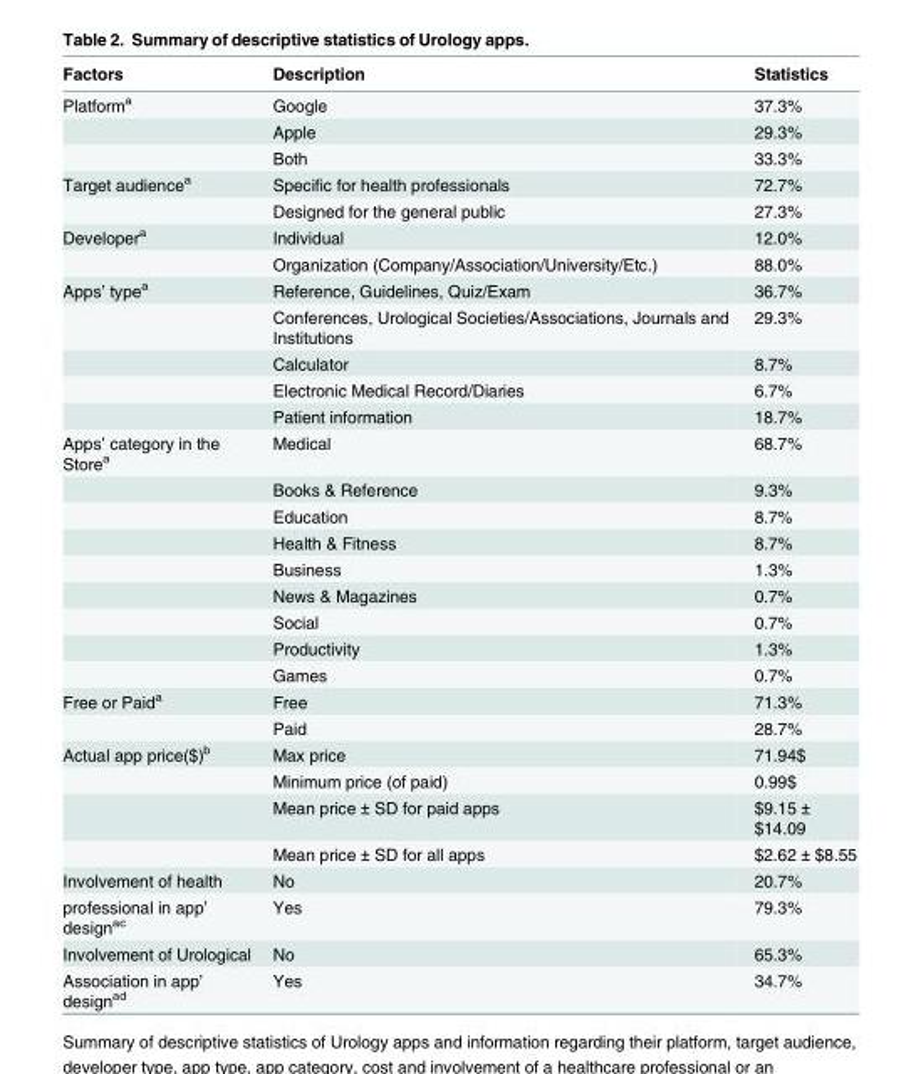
<table><thead><tr><td>Factors</td><td>Description</td><td>Statistics</td></tr></thead><tbody><tr><td rowspan="3">Platform<sup>a</sup></td><td>Google</td><td>37.3%</td></tr><tr><td>Apple</td><td>29.3%</td></tr><tr><td>Both</td><td>33.3%</td></tr><tr><td rowspan="2">Target audience<sup>a</sup></td><td>Specific for health professionals</td><td>72.7%</td></tr><tr><td>Designed for the general public</td><td>27.3%</td></tr><tr><td rowspan="2">Developer<sup>a</sup></td><td>Individual</td><td>12.0%</td></tr><tr><td>Organization (Company/Association/University/Etc.)</td><td>88.0%</td></tr><tr><td rowspan="5">Apps’ type<sup>a</sup></td><td>Reference, Guidelines, Quiz/Exam</td><td>36.7%</td></tr><tr><td>Conferences, Urological Societies/Associations, Journals and Institutions</td><td>29.3%</td></tr><tr><td>Calculator</td><td>8.7%</td></tr><tr><td>Electronic Medical Record/Diaries</td><td>6.7%</td></tr><tr><td>Patient information</td><td>18.7%</td></tr><tr><td rowspan="9">Apps’ category in the Store<sup>a</sup></td><td>Medical</td><td>68.7%</td></tr><tr><td>Books &amp; Reference</td><td>9.3%</td></tr><tr><td>Education</td><td>8.7%</td></tr><tr><td>Health &amp; Fitness</td><td>8.7%</td></tr><tr><td>Business</td><td>1.3%</td></tr><tr><td>News &amp; Magazines</td><td>0.7%</td></tr><tr><td>Social</td><td>0.7%</td></tr><tr><td>Productivity</td><td>1.3%</td></tr><tr><td>Games</td><td>0.7%</td></tr><tr><td rowspan="2">Free or Paid<sup>a</sup></td><td>Free</td><td>71.3%</td></tr><tr><td>Paid</td><td>28.7%</td></tr><tr><td rowspan="4">Actual app price($)<sup>b</sup></td><td>Max price</td><td>71.94$</td></tr><tr><td>Minimum price (of paid)</td><td>0.99$</td></tr><tr><td>Mean price ± SD for paid apps</td><td>$9.15 ± $14.09</td></tr><tr><td>Mean price ± SD for all apps</td><td>$2.62 ± $8.55</td></tr><tr><td>Involvement of health</td><td>No</td><td>20.7%</td></tr><tr><td>professional in app’ design<sup>ac</sup></td><td>Yes</td><td>79.3%</td></tr><tr><td>Involvement of Urological</td><td>No</td><td>65.3%</td></tr><tr><td>Association in app’ design<sup>ad</sup></td><td>Yes</td><td>34.7%</td></tr></tbody></table>